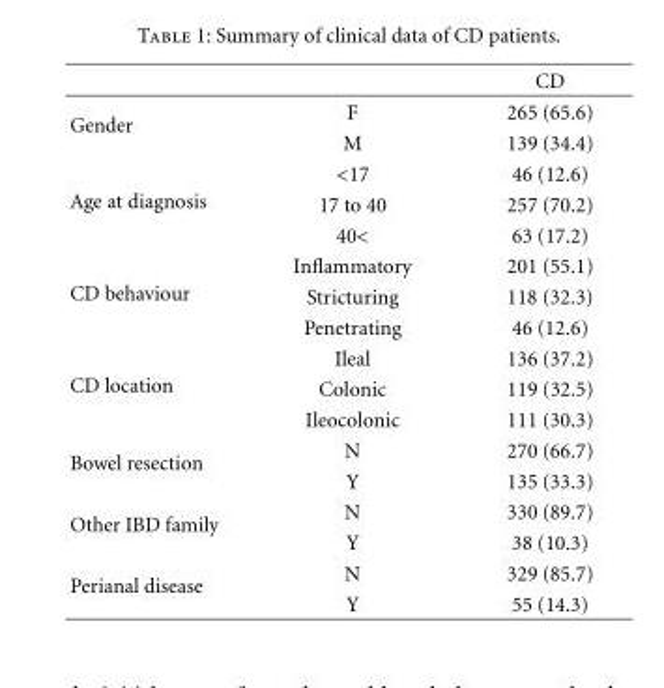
<table><thead><tr><td></td><td></td><td>CD</td></tr></thead><tbody><tr><td rowspan="2">Gender</td><td>F</td><td>265 (65.6)</td></tr><tr><td>M</td><td>139 (34.4)</td></tr><tr><td rowspan="3">Age at diagnosis</td><td>&lt;17</td><td>46 (12.6)</td></tr><tr><td>17 to 40</td><td>257 (70.2)</td></tr><tr><td>40&lt;</td><td>63 (17.2)</td></tr><tr><td rowspan="3">CD behaviour</td><td>Inflammatory</td><td>201 (55.1)</td></tr><tr><td>Stricturing</td><td>118 (32.3)</td></tr><tr><td>Penetrating</td><td>46 (12.6)</td></tr><tr><td rowspan="3">CD location</td><td>Ileal</td><td>136 (37.2)</td></tr><tr><td>Colonic</td><td>119 (32.5)</td></tr><tr><td>Ileocolonic</td><td>111 (30.3)</td></tr><tr><td rowspan="2">Bowel resection</td><td>N</td><td>270 (66.7)</td></tr><tr><td>Y</td><td>135 (33.3)</td></tr><tr><td rowspan="2">Other IBD family</td><td>N</td><td>330 (89.7)</td></tr><tr><td>Y</td><td>38 (10.3)</td></tr><tr><td rowspan="2">Perianal disease</td><td>N</td><td>329 (85.7)</td></tr><tr><td>Y</td><td>55 (14.3)</td></tr></tbody></table>